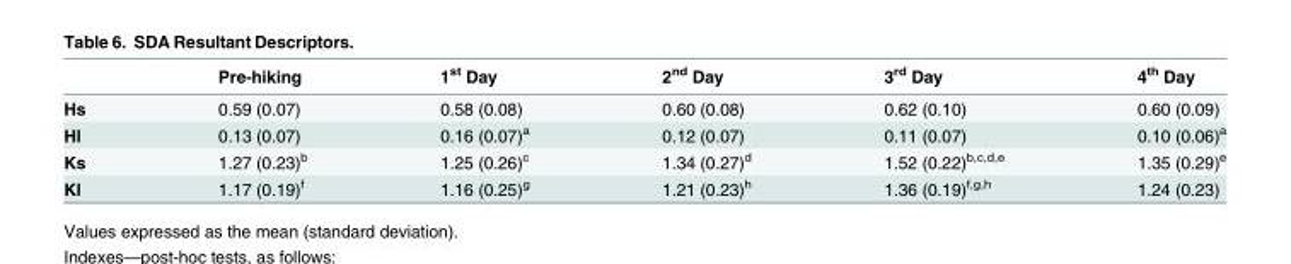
<table><thead><tr><td></td><td>Pre-hiking</td><td>1<sup>st</sup> Day</td><td>2<sup>nd</sup> Day</td><td>3<sup>rd</sup> Day</td><td>4<sup>th</sup> Day</td></tr></thead><tbody><tr><td>Hs</td><td>0.59 (0.07)</td><td>0.58 (0.08)</td><td>0.60 (0.08)</td><td>0.62 (0.10)</td><td>0.60 (0.09)</td></tr><tr><td>Hl</td><td>0.13 (0.07)</td><td>0.16 (0.07)<sup>a</sup></td><td>0.12 (0.07)</td><td>0.11 (0.07)</td><td>0.10 (0.06)<sup>a</sup></td></tr><tr><td>Ks</td><td>1.27 (0.23)<sup>b</sup></td><td>1.25 (0.26)<sup>c</sup></td><td>1.34 (0.27)<sup>d</sup></td><td>1.52 (0.22)<sup>b,c,d,e</sup></td><td>1.35 (0.29)<sup>e</sup></td></tr><tr><td>Kl</td><td>1.17 (0.19)<sup>f</sup></td><td>1.16 (0.25)<sup>g</sup></td><td>1.21 (0.23)<sup>h</sup></td><td>1.36 (0.19)<sup>f,g,h</sup></td><td>1.24 (0.23)</td></tr></tbody></table>